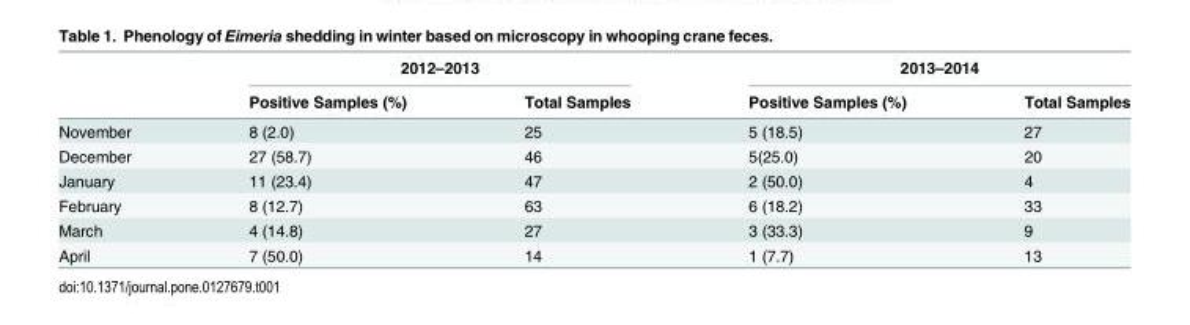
<table><thead><tr><td rowspan="2"></td><td colspan="2">2012–2013</td><td colspan="2">2013–2014</td></tr><tr><td>Positive Samples (%)</td><td>Total Samples</td><td>Positive Samples (%)</td><td>Total Samples</td></tr></thead><tbody><tr><td>November</td><td>8 (2.0)</td><td>25</td><td>5 (18.5)</td><td>27</td></tr><tr><td>December</td><td>27 (58.7)</td><td>46</td><td>5(25.0)</td><td>20</td></tr><tr><td>January</td><td>11 (23.4)</td><td>47</td><td>2 (50.0)</td><td>4</td></tr><tr><td>February</td><td>8 (12.7)</td><td>63</td><td>6 (18.2)</td><td>33</td></tr><tr><td>March</td><td>4 (14.8)</td><td>27</td><td>3 (33.3)</td><td>9</td></tr><tr><td>April</td><td>7 (50.0)</td><td>14</td><td>1 (7.7)</td><td>13</td></tr></tbody></table>